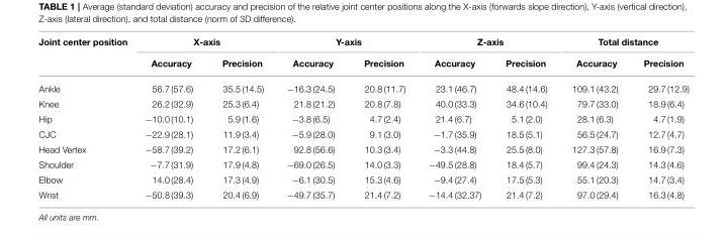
<table><thead><tr><td rowspan="2">Joint center position</td><td colspan="2">X-axis</td><td colspan="2">Y-axis</td><td colspan="2">Z-axis</td><td colspan="2">Total distance</td></tr><tr><td>Accuracy</td><td>Precision</td><td>Accuracy</td><td>Precision</td><td>Accuracy</td><td>Precision</td><td>Accuracy</td><td>Precision</td></tr></thead><tbody><tr><td>Ankle</td><td>56.7 (57.6)</td><td>35.5 (14.5)</td><td>−16.3 (24.5)</td><td>20.8 (11.7)</td><td>23.1 (46.7)</td><td>48.4 (14.6)</td><td>109.1 (43.2)</td><td>29.7 (12.9)</td></tr><tr><td>Knee</td><td>26.2 (32.9)</td><td>25.3 (6.4)</td><td>21.8 (21.2)</td><td>20.8 (7.8)</td><td>40.0 (33.3)</td><td>34.6 (10.4)</td><td>79.7 (33.0)</td><td>18.9 (6.4)</td></tr><tr><td>Hip</td><td>−10.0 (10.1)</td><td>5.9 (1.6)</td><td>−3.8 (6.5)</td><td>4.7 (2.4)</td><td>21.4 (6.7)</td><td>5.1 (2.0)</td><td>28.1 (6.3)</td><td>4.7 (1.9)</td></tr><tr><td>CJC</td><td>−22.9 (28.1)</td><td>11.9 (3.4)</td><td>−5.9 (28.0)</td><td>9.1 (3.0)</td><td>−1.7 (35.9)</td><td>18.5 (5.1)</td><td>56.5 (24.7)</td><td>12.7 (4.7)</td></tr><tr><td>Head Vertex</td><td>−58.7 (39.2)</td><td>17.2 (6.1)</td><td>92.8 (56.6)</td><td>10.3 (3.4)</td><td>−3.3 (44.8)</td><td>25.5 (8.0)</td><td>127.3 (57.8)</td><td>16.9 (7.3)</td></tr><tr><td>Shoulder</td><td>−7.7 (31.9)</td><td>17.9 (4.8)</td><td>−69.0 (26.5)</td><td>14.0 (3.3)</td><td>−49.5 (28.8)</td><td>18.4 (5.7)</td><td>99.4 (24.3)</td><td>14.3 (4.6)</td></tr><tr><td>Elbow</td><td>14.0 (28.4)</td><td>17.3 (4.9)</td><td>−6.1 (30.5)</td><td>15.3 (4.6)</td><td>−9.4 (27.4)</td><td>17.5 (5.3)</td><td>55.1 (20.3)</td><td>14.7 (3.4)</td></tr><tr><td>Wrist</td><td>−50.8 (39.3)</td><td>20.4 (6.9)</td><td>−49.7 (35.7)</td><td>21.4 (7.2)</td><td>−14.4 (32.37)</td><td>21.4 (7.2)</td><td>97.0 (29.4)</td><td>16.3 (4.8)</td></tr></tbody></table>